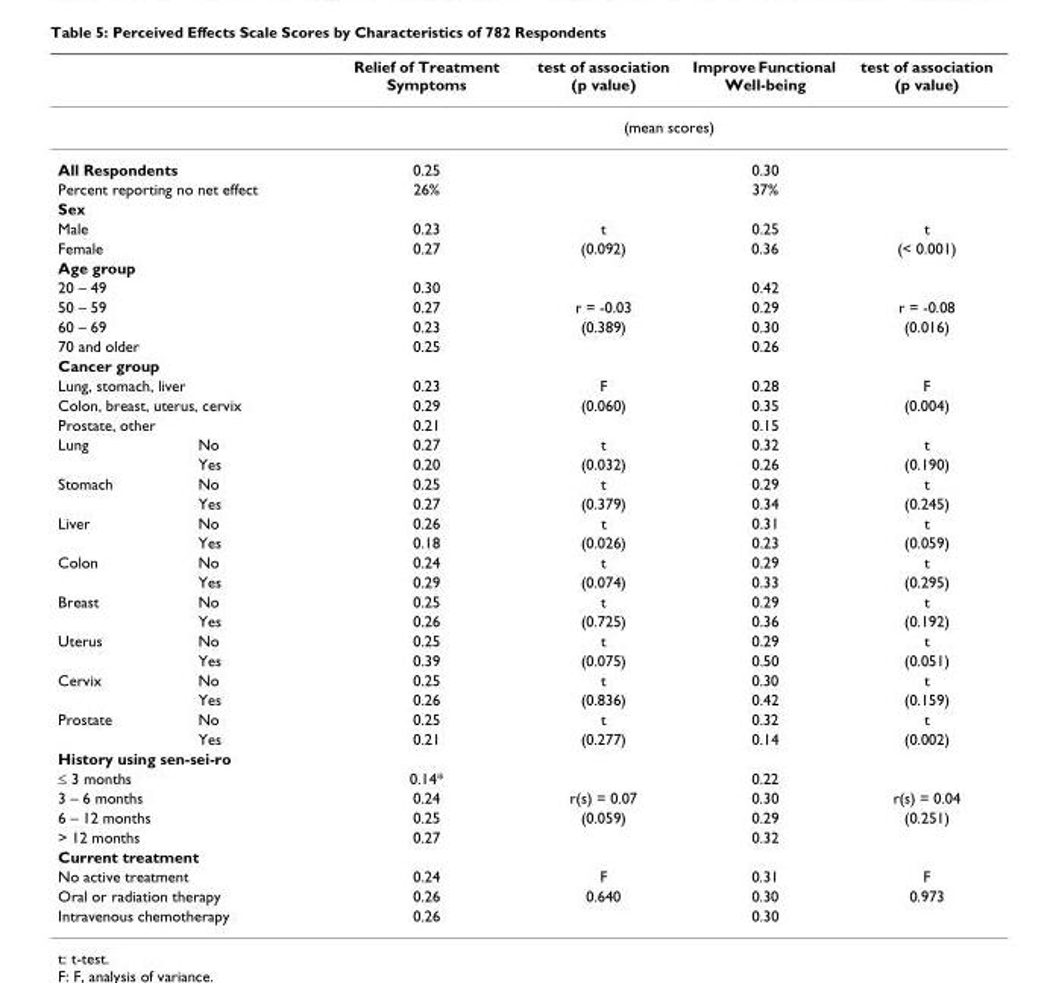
<table><thead><tr><td></td><td></td><td>Relief of Treatment Symptoms</td><td>test of association (p value)</td><td>Improve Functional Well-being</td><td>test of association (p value)</td></tr></thead><tbody><tr><td></td><td></td><td colspan="4">(mean scores)</td></tr><tr><td>All Respondents</td><td></td><td>0.25</td><td></td><td>0.30</td><td></td></tr><tr><td colspan="2">Percent reporting no net effect</td><td>26%</td><td></td><td>37%</td><td></td></tr><tr><td colspan="6">Sex</td></tr><tr><td colspan="2">Male</td><td>0.23</td><td>t</td><td>0.25</td><td>t</td></tr><tr><td colspan="2">Female</td><td>0.27</td><td>(0.092)</td><td>0.36</td><td>(&lt; 0.001)</td></tr><tr><td colspan="6">Age group</td></tr><tr><td colspan="2">20 – 49</td><td>0.30</td><td></td><td>0.42</td><td></td></tr><tr><td colspan="2">50 – 59</td><td>0.27</td><td>r = -0.03</td><td>0.29</td><td>r = -0.08</td></tr><tr><td colspan="2">60 – 69</td><td>0.23</td><td>(0.389)</td><td>0.30</td><td>(0.016)</td></tr><tr><td colspan="2">70 and older</td><td>0.25</td><td></td><td>0.26</td><td></td></tr><tr><td colspan="6">Cancer group</td></tr><tr><td colspan="2">Lung, stomach, liver</td><td>0.23</td><td>F</td><td>0.28</td><td>F</td></tr><tr><td colspan="2">Colon, breast, uterus, cervix</td><td>0.29</td><td>(0.060)</td><td>0.35</td><td>(0.004)</td></tr><tr><td colspan="2">Prostate, other</td><td>0.21</td><td></td><td>0.15</td><td></td></tr><tr><td rowspan="2">Lung</td><td>No</td><td>0.27</td><td>t</td><td>0.32</td><td>t</td></tr><tr><td>Yes</td><td>0.20</td><td>(0.032)</td><td>0.26</td><td>(0.190)</td></tr><tr><td rowspan="2">Stomach</td><td>No</td><td>0.25</td><td>t</td><td>0.29</td><td>t</td></tr><tr><td>Yes</td><td>0.27</td><td>(0.379)</td><td>0.34</td><td>(0.245)</td></tr><tr><td rowspan="2">Liver</td><td>No</td><td>0.26</td><td>t</td><td>0.31</td><td>t</td></tr><tr><td>Yes</td><td>0.18</td><td>(0.026)</td><td>0.23</td><td>(0.059)</td></tr><tr><td rowspan="2">Colon</td><td>No</td><td>0.24</td><td>t</td><td>0.29</td><td>t</td></tr><tr><td>Yes</td><td>0.29</td><td>(0.074)</td><td>0.33</td><td>(0.295)</td></tr><tr><td rowspan="2">Breast</td><td>No</td><td>0.25</td><td>t</td><td>0.29</td><td>t</td></tr><tr><td>Yes</td><td>0.26</td><td>(0.725)</td><td>0.36</td><td>(0.192)</td></tr><tr><td rowspan="2">Uterus</td><td>No</td><td>0.25</td><td>t</td><td>0.29</td><td>t</td></tr><tr><td>Yes</td><td>0.39</td><td>(0.075)</td><td>0.50</td><td>(0.051)</td></tr><tr><td rowspan="2">Cervix</td><td>No</td><td>0.25</td><td>t</td><td>0.30</td><td>t</td></tr><tr><td>Yes</td><td>0.26</td><td>(0.836)</td><td>0.42</td><td>(0.159)</td></tr><tr><td rowspan="2">Prostate</td><td>No</td><td>0.25</td><td>t</td><td>0.32</td><td>t</td></tr><tr><td>Yes</td><td>0.21</td><td>(0.277)</td><td>0.14</td><td>(0.002)</td></tr><tr><td colspan="6">History using sen-sei-ro</td></tr><tr><td colspan="2">≤ 3 months</td><td>0.14*</td><td></td><td>0.22</td><td></td></tr><tr><td colspan="2">3 – 6 months</td><td>0.24</td><td>r(s) = 0.07</td><td>0.30</td><td>r(s) = 0.04</td></tr><tr><td colspan="2">6 – 12 months</td><td>0.25</td><td>(0.059)</td><td>0.29</td><td>(0.251)</td></tr><tr><td colspan="2">&gt; 12 months</td><td>0.27</td><td></td><td>0.32</td><td></td></tr><tr><td colspan="6">Current treatment</td></tr><tr><td colspan="2">No active treatment</td><td>0.24</td><td>F</td><td>0.31</td><td>F</td></tr><tr><td colspan="2">Oral or radiation therapy</td><td>0.26</td><td>0.640</td><td>0.30</td><td>0.973</td></tr><tr><td colspan="2">Intravenous chemotherapy</td><td>0.26</td><td></td><td>0.30</td><td></td></tr></tbody></table>